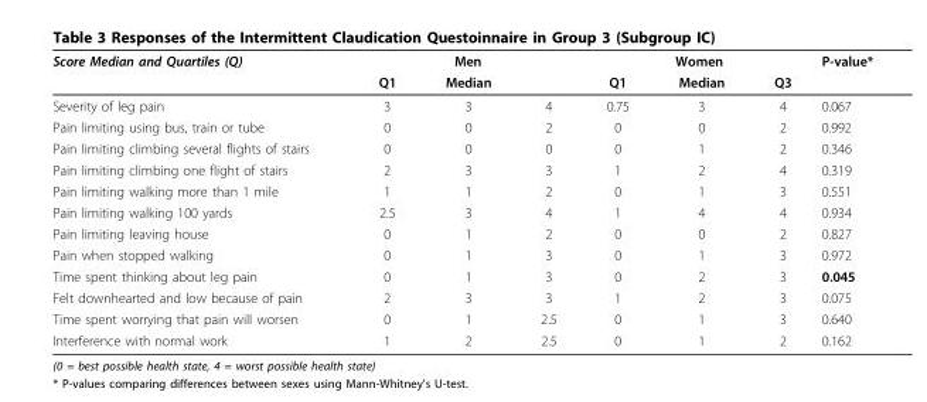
<table><thead><tr><td rowspan="2">Score Median and Quartiles (Q)</td><td colspan="3">Men</td><td colspan="3">Women</td><td rowspan="2">P-value*</td></tr><tr><td>Q1</td><td>Median</td><td></td><td>Q1</td><td>Median</td><td>Q3</td></tr></thead><tbody><tr><td>Severity of leg pain</td><td>3</td><td>3</td><td>4</td><td>0.75</td><td>3</td><td>4</td><td>0.067</td></tr><tr><td>Pain limiting using bus, train or tube</td><td>0</td><td>0</td><td>2</td><td>0</td><td>0</td><td>2</td><td>0.992</td></tr><tr><td>Pain limiting climbing several flights of stairs</td><td>0</td><td>0</td><td>0</td><td>0</td><td>1</td><td>2</td><td>0.346</td></tr><tr><td>Pain limiting climbing one flight of stairs</td><td>2</td><td>3</td><td>3</td><td>1</td><td>2</td><td>4</td><td>0.319</td></tr><tr><td>Pain limiting walking more than 1 mile</td><td>1</td><td>1</td><td>2</td><td>0</td><td>1</td><td>3</td><td>0.551</td></tr><tr><td>Pain limiting walking 100 yards</td><td>2.5</td><td>3</td><td>4</td><td>1</td><td>4</td><td>4</td><td>0.934</td></tr><tr><td>Pain limiting leaving house</td><td>0</td><td>1</td><td>2</td><td>0</td><td>0</td><td>2</td><td>0.827</td></tr><tr><td>Pain when stopped walking</td><td>0</td><td>1</td><td>3</td><td>0</td><td>1</td><td>3</td><td>0.972</td></tr><tr><td>Time spent thinking about leg pain</td><td>0</td><td>1</td><td>3</td><td>0</td><td>2</td><td>3</td><td>0.045</td></tr><tr><td>Felt downhearted and low because of pain</td><td>2</td><td>3</td><td>3</td><td>1</td><td>2</td><td>3</td><td>0.075</td></tr><tr><td>Time spent worrying that pain will worsen</td><td>0</td><td>1</td><td>2.5</td><td>0</td><td>1</td><td>3</td><td>0.640</td></tr><tr><td>Interference with normal work</td><td>1</td><td>2</td><td>2.5</td><td>0</td><td>1</td><td>2</td><td>0.162</td></tr></tbody></table>